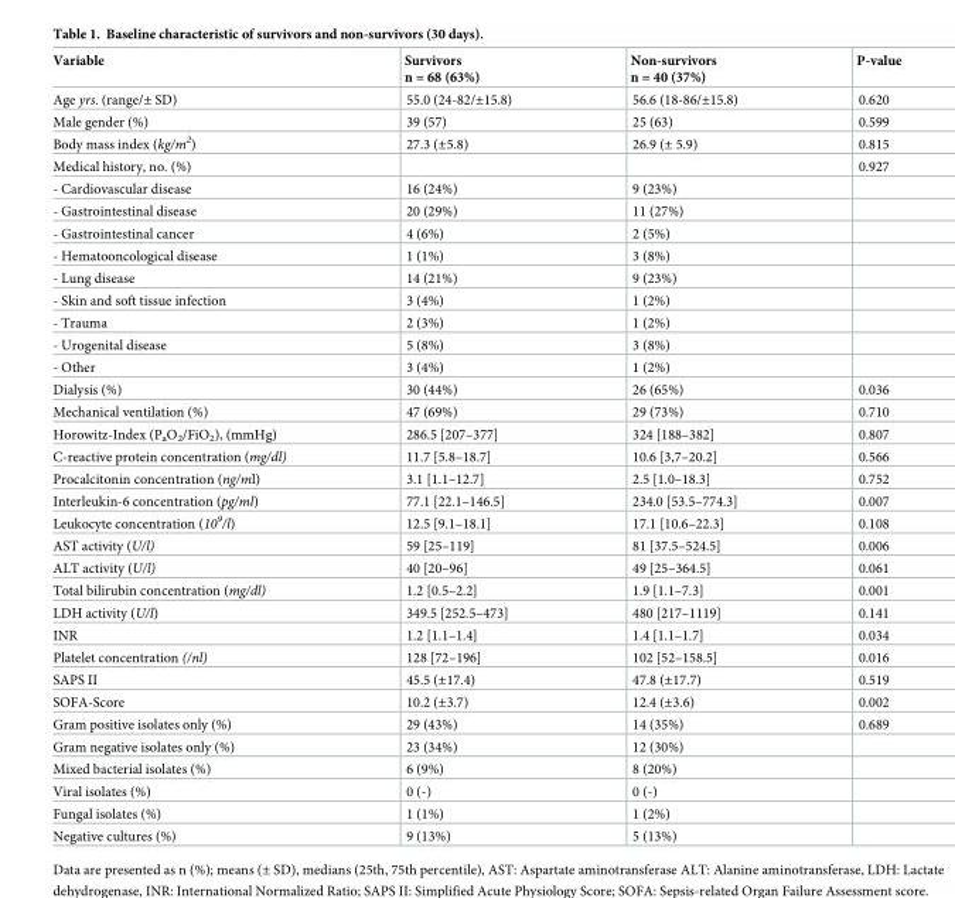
<table><thead><tr><td>Variable</td><td>Survivors n = 68 (63%)</td><td>Non-survivors n = 40 (37%)</td><td>P-value</td></tr></thead><tbody><tr><td>Age yrs. (range/± SD)</td><td>55.0 (24-82/±15.8)</td><td>56.6 (18-86/±15.8)</td><td>0.620</td></tr><tr><td>Male gender (%)</td><td>39 (57)</td><td>25 (63)</td><td>0.599</td></tr><tr><td>Body mass index (kg/m<sup>2</sup>)</td><td>27.3 (±5.8)</td><td>26.9 (± 5.9)</td><td>0.815</td></tr><tr><td>Medical history, no. (%)</td><td></td><td></td><td>0.927</td></tr><tr><td>- Cardiovascular disease</td><td>16 (24%)</td><td>9 (23%)</td><td></td></tr><tr><td>- Gastrointestinal disease</td><td>20 (29%)</td><td>11 (27%)</td><td></td></tr><tr><td>- Gastrointestinal cancer</td><td>4 (6%)</td><td>2 (5%)</td><td></td></tr><tr><td>- Hematooncological disease</td><td>1 (1%)</td><td>3 (8%)</td><td></td></tr><tr><td>- Lung disease</td><td>14 (21%)</td><td>9 (23%)</td><td></td></tr><tr><td>- Skin and soft tissue infection</td><td>3 (4%)</td><td>1 (2%)</td><td></td></tr><tr><td>- Trauma</td><td>2 (3%)</td><td>1 (2%)</td><td></td></tr><tr><td>- Urogenital disease</td><td>5 (8%)</td><td>3 (8%)</td><td></td></tr><tr><td>- Other</td><td>3 (4%)</td><td>1 (2%)</td><td></td></tr><tr><td>Dialysis (%)</td><td>30 (44%)</td><td>26 (65%)</td><td>0.036</td></tr><tr><td>Mechanical ventilation (%)</td><td>47 (69%)</td><td>29 (73%)</td><td>0.710</td></tr><tr><td>Horowitz-Index (P<sub>a</sub>O<sub>2</sub>/FiO<sub>2</sub>), (mmHg)</td><td>286.5 [207–377]</td><td>324 [188–382]</td><td>0.807</td></tr><tr><td>C-reactive protein concentration (mg/dl)</td><td>11.7 [5.8–18.7]</td><td>10.6 [3,7–20.2]</td><td>0.566</td></tr><tr><td>Procalcitonin concentration (ng/ml)</td><td>3.1 [1.1–12.7]</td><td>2.5 [1.0–18.3]</td><td>0.752</td></tr><tr><td>Interleukin-6 concentration (pg/ml)</td><td>77.1 [22.1–146.5]</td><td>234.0 [53.5–774.3]</td><td>0.007</td></tr><tr><td>Leukocyte concentration (10<sup>9</sup>/l)</td><td>12.5 [9.1–18.1]</td><td>17.1 [10.6–22.3]</td><td>0.108</td></tr><tr><td>AST activity (U/l)</td><td>59 [25–119]</td><td>81 [37.5–524.5]</td><td>0.006</td></tr><tr><td>ALT activity (U/l)</td><td>40 [20–96]</td><td>49 [25–364.5]</td><td>0.061</td></tr><tr><td>Total bilirubin concentration (mg/dl)</td><td>1.2 [0.5–2.2]</td><td>1.9 [1.1–7.3]</td><td>0.001</td></tr><tr><td>LDH activity (U/l)</td><td>349.5 [252.5–473]</td><td>480 [217–1119]</td><td>0.141</td></tr><tr><td>INR</td><td>1.2 [1.1–1.4]</td><td>1.4 [1.1–1.7]</td><td>0.034</td></tr><tr><td>Platelet concentration (/nl)</td><td>128 [72–196]</td><td>102 [52–158.5]</td><td>0.016</td></tr><tr><td>SAPS II</td><td>45.5 (±17.4)</td><td>47.8 (±17.7)</td><td>0.519</td></tr><tr><td>SOFA-Score</td><td>10.2 (±3.7)</td><td>12.4 (±3.6)</td><td>0.002</td></tr><tr><td>Gram positive isolates only (%)</td><td>29 (43%)</td><td>14 (35%)</td><td>0.689</td></tr><tr><td>Gram negative isolates only (%)</td><td>23 (34%)</td><td>12 (30%)</td><td></td></tr><tr><td>Mixed bacterial isolates (%)</td><td>6 (9%)</td><td>8 (20%)</td><td></td></tr><tr><td>Viral isolates (%)</td><td>0 (-)</td><td>0 (-)</td><td></td></tr><tr><td>Fungal isolates (%)</td><td>1 (1%)</td><td>1 (2%)</td><td></td></tr><tr><td>Negative cultures (%)</td><td>9 (13%)</td><td>5 (13%)</td><td></td></tr></tbody></table>